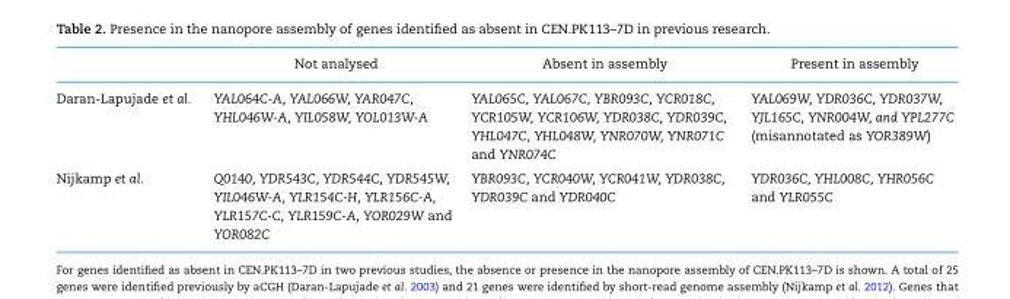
<table><thead><tr><td></td><td>Not analysed</td><td>Absent in assembly</td><td>Present in assembly</td></tr></thead><tbody><tr><td>Daran-Lapujade et al.</td><td>YAL064C-A, YAL066W, YAR047C, YHL046W-A, YIL058W, YOL013W-A</td><td>YAL065C, YAL067C, YBR093C, YCR018C, YCR105W, YCR106W, YDR038C, YDR039C, YHL047C, YHL048W, YNR070W, YNR071C and YNR074C</td><td>YAL069W, YDR036C, YDR037W, YJL165C, YNR004W, and YPL277C (misannotated as YOR389W)</td></tr><tr><td>Nijkamp et al.</td><td>Q0140, YDR543C, YDR544C, YDR545W, YIL046W-A, YLR154C-H, YLR156C-A, YLR157C-C, YLR159C-A, YOR029W and YOR082C</td><td>YBR093C, YCR040W, YCR041W, YDR038C, YDR039C and YDR040C</td><td>YDR036C, YHL008C, YHR056C and YLR055C</td></tr></tbody></table>